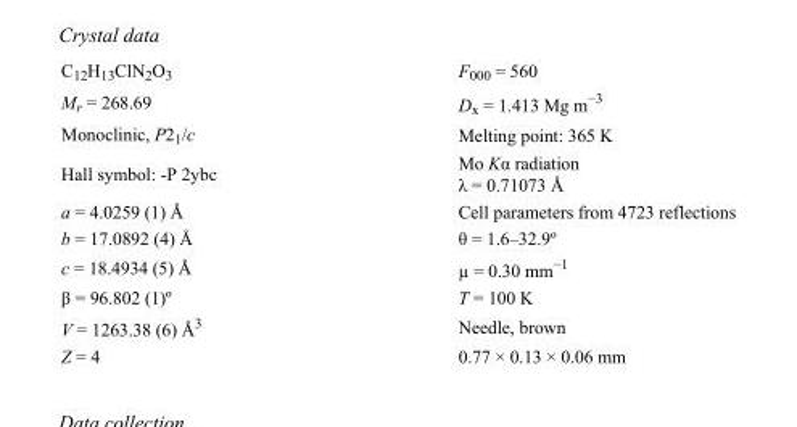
<table><tbody><tr><td>C<sub>12</sub>H<sub>13</sub>ClN<sub>2</sub>O<sub>3</sub></td><td>F000 = 560</td></tr><tr><td>M<sub>r</sub> = 268.69</td><td>D<sub>x</sub> = 1.413 Mg m<sup>−3</sup></td></tr><tr><td>Monoclinic, P2<sub>1</sub>/c</td><td>Melting point: 365 K</td></tr><tr><td>Hall symbol: -P 2ybc</td><td>Mo Kα radiation λ = 0.71073 Å</td></tr><tr><td>a = 4.0259 (1) Å</td><td>Cell parameters from 4723 reflections</td></tr><tr><td>b = 17.0892 (4) Å</td><td>θ = 1.6–32.9º</td></tr><tr><td>c = 18.4934 (5) Å</td><td>µ = 0.30 mm<sup>−1</sup></td></tr><tr><td>β = 96.802 (1)º</td><td>T = 100 K</td></tr><tr><td>V = 1263.38 (6) Å<sup>3</sup></td><td>Needle, brown</td></tr><tr><td>Z = 4</td><td>0.77 × 0.13 × 0.06 mm</td></tr></tbody></table>